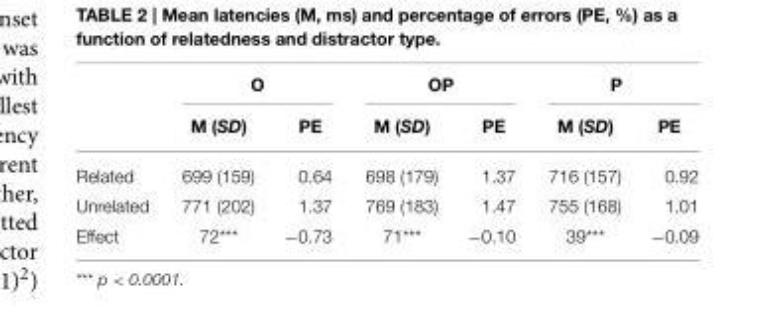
<table><thead><tr><td rowspan="2"></td><td colspan="2">O</td><td colspan="2">OP</td><td colspan="2">P</td></tr><tr><td>M (SD)</td><td>PE</td><td>M (SD)</td><td>PE</td><td>M (SD)</td><td>PE</td></tr></thead><tbody><tr><td>Related</td><td>699 (159)</td><td>0.64</td><td>698 (179)</td><td>1.37</td><td>716 (157)</td><td>0.92</td></tr><tr><td>Unrelated</td><td>771 (202)</td><td>1.37</td><td>769 (183)</td><td>1.47</td><td>755 (168)</td><td>1.01</td></tr><tr><td>Effect</td><td>72***</td><td>−0.73</td><td>71***</td><td>−0.10</td><td>39***</td><td>−0.09</td></tr></tbody></table>